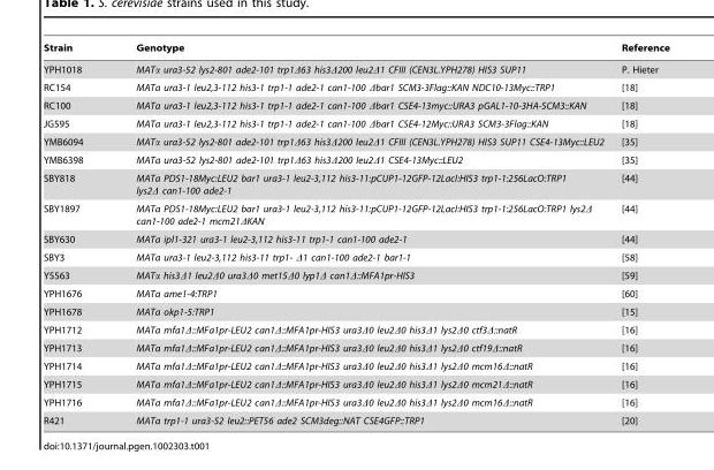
<table><thead><tr><td>Strain</td><td>Genotype</td><td>Reference</td></tr></thead><tbody><tr><td>YPH1018</td><td>MATα ura3-52 lys2-801 ade2-101 trp1Δ63 his3Δ200 leu2Δ1 CFIII (CEN3L.YPH278) HIS3 SUP11</td><td>P. Hieter</td></tr><tr><td>RC154</td><td>MATa ura3-1 leu2,3-112 his3-1 trp1-1 ade2-1 can1-100 Δbar1 SCM3-3Flag::KAN NDC10-13Myc::TRP1</td><td>[18]</td></tr><tr><td>RC100</td><td>MATa ura3-1 leu2,3-112 his3-1 trp1-1 ade2-1 can1-100 Δbar1 CSE4-13myc::URA3 pGAL1-10-3HA-SCM3::KAN</td><td>[18]</td></tr><tr><td>JG595</td><td>MATa ura3-1 leu2,3-112 his3-1 trp1-1 ade2-1 can1-100 Δbar1 CSE4-12Myc::URA3 SCM3-3Flag::KAN</td><td>[18]</td></tr><tr><td>YMB6094</td><td>MATα ura3-52 lys2-801 ade2-101 trp1Δ63 his3Δ200 leu2Δ1 CFIII (CEN3L.YPH278) HIS3 SUP11 CSE4-13Myc::LEU2</td><td>[35]</td></tr><tr><td>YMB6398</td><td>MATa ura3-52 lys2-801 ade2-101 trp1Δ63 his3Δ200 leu2Δ1 CSE4-13Myc::LEU2</td><td>[35]</td></tr><tr><td>SBY818</td><td>MATa PDS1-18Myc:LEU2 bar1 ura3-1 leu2-3,112 his3-11:pCUP1-12GFP-12LacI:HIS3 trp1-1:256LacO:TRP1 lys2Δ can1-100 ade2-1</td><td>[44]</td></tr><tr><td>SBY1897</td><td>MATa PDS1-18Myc:LEU2 bar1 ura3-1 leu2-3,112 his3-11:pCUP1-12GFP-12LacI:HIS3 trp1-1:256LacO:TRP1 lys2Δ can1-100 ade2-1 mcm21ΔKAN</td><td>[44]</td></tr><tr><td>SBY630</td><td>MATa ipl1-321 ura3-1 leu2-3,112 his3-11 trp1-1 can1-100 ade2-1</td><td>[44]</td></tr><tr><td>SBY3</td><td>MATa ura3-1 leu2-3,112 his3-11 trp1- Δ1 can1-100 ade2-1 bar1-1</td><td>[58]</td></tr><tr><td>Y5563</td><td>MATα his3Δ1 leu2Δ0 ura3Δ0 met15Δ0 lyp1Δ can1Δ::MFA1pr-HIS3</td><td>[59]</td></tr><tr><td>YPH1676</td><td>MATa ame1-4:TRP1</td><td>[60]</td></tr><tr><td>YPH1678</td><td>MATa okp1-5:TRP1</td><td>[15]</td></tr><tr><td>YPH1712</td><td>MATa mfa1Δ::MFa1pr-LEU2 can1Δ::MFA1pr-HIS3 ura3Δ0 leu2Δ0 his3Δ1 lys2Δ0 ctf3Δ::natR</td><td>[16]</td></tr><tr><td>YPH1713</td><td>MATa mfa1Δ::MFa1pr-LEU2 can1Δ::MFA1pr-HIS3 ura3Δ0 leu2Δ0 his3Δ1 lys2Δ0 ctf19Δ::natR</td><td>[16]</td></tr><tr><td>YPH1714</td><td>MATa mfa1Δ::MFa1pr-LEU2 can1Δ::MFA1pr-HIS3 ura3Δ0 leu2Δ0 his3Δ1 lys2Δ0 mcm16Δ::natR</td><td>[16]</td></tr><tr><td>YPH1715</td><td>MATa mfa1Δ::MFa1pr-LEU2 can1Δ::MFA1pr-HIS3 ura3Δ0 leu2Δ0 his3Δ1 lys2Δ0 mcm21Δ::natR</td><td>[16]</td></tr><tr><td>YPH1716</td><td>MATa mfa1Δ::MFa1pr-LEU2 can1Δ::MFA1pr-HIS3 ura3Δ0 leu2Δ0 his3Δ1 lys2Δ0 mcm16Δ::natR</td><td>[16]</td></tr><tr><td>R421</td><td>MATa trp1-1 ura3-52 leu2::PET56 ade2 SCM3deg::NAT CSE4GFP::TRP1</td><td>[20]</td></tr></tbody></table>